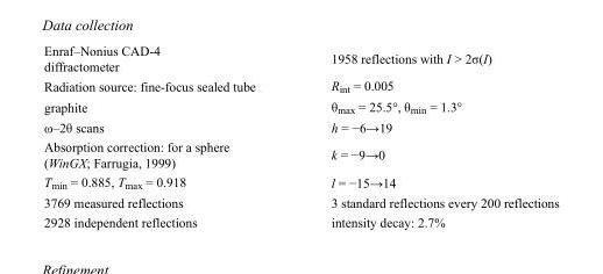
<table><tbody><tr><td>Enraf–Nonius CAD-4 diffractometer</td><td>1958 reflections with I &gt; 2σ(I)</td></tr><tr><td>Radiation source: fine-focus sealed tube</td><td>R<sub>int</sub> = 0.005</td></tr><tr><td>graphite</td><td>θ<sub>max</sub> = 25.5°, θ<sub>min</sub> = 1.3°</td></tr><tr><td>ω–2θ scans</td><td>h = −6→19</td></tr><tr><td>Absorption correction: for a sphere (WinGX; Farrugia, 1999)</td><td>k = −9→0</td></tr><tr><td>T<sub>min</sub> = 0.885, T<sub>max</sub> = 0.918</td><td>l = −15→14</td></tr><tr><td>3769 measured reflections</td><td>3 standard reflections every 200 reflections</td></tr><tr><td>2928 independent reflections</td><td>intensity decay: 2.7%</td></tr></tbody></table>